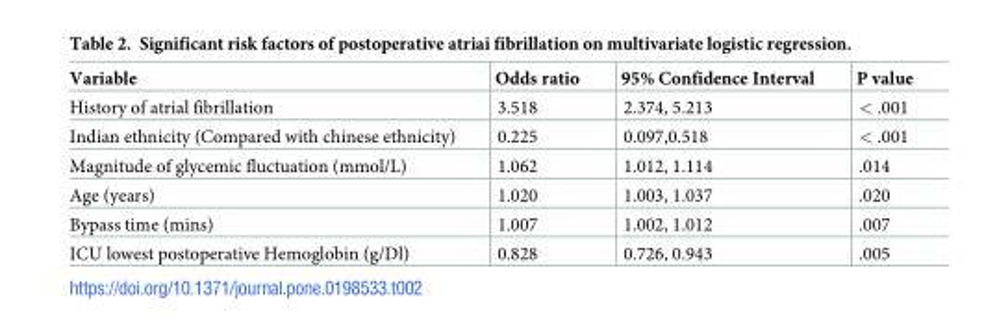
<table><thead><tr><td>Variable</td><td>Odds ratio</td><td>95% Confidence Interval</td><td>P value</td></tr></thead><tbody><tr><td>History of atrial fibrillation</td><td>3.518</td><td>2.374, 5.213</td><td>&lt; .001</td></tr><tr><td>Indian ethnicity (Compared with chinese ethnicity)</td><td>0.225</td><td>0.097,0.518</td><td>&lt; .001</td></tr><tr><td>Magnitude of glycemic fluctuation (mmol/L)</td><td>1.062</td><td>1.012, 1.114</td><td>.014</td></tr><tr><td>Age (years)</td><td>1.020</td><td>1.003, 1.037</td><td>.020</td></tr><tr><td>Bypass time (mins)</td><td>1.007</td><td>1.002, 1.012</td><td>.007</td></tr><tr><td>ICU lowest postoperative Hemoglobin (g/Dl)</td><td>0.828</td><td>0.726, 0.943</td><td>.005</td></tr></tbody></table>